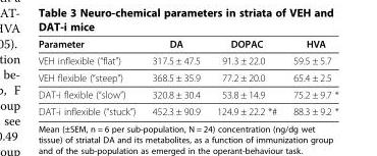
<table><thead><tr><td>Parameter</td><td>DA</td><td>DOPAC</td><td>HVA</td></tr></thead><tbody><tr><td>VEH inflexible (“flat”)</td><td>317.5 ± 47.5</td><td>91.3 ± 22.0</td><td>59.5 ± 5.7</td></tr><tr><td>VEH flexible (“steep”)</td><td>368.5 ± 35.9</td><td>77.2 ± 20.0</td><td>65.4 ± 2.5</td></tr><tr><td>DAT-i flexible (“slow”)</td><td>320.8 ± 30.4</td><td>53.8 ± 14.9</td><td>75.2 ± 9.7 *</td></tr><tr><td>DAT-i inflexible (“stuck”)</td><td>452.3 ± 90.9</td><td>124.9 ± 22.2 *#</td><td>88.3 ± 9.2 *</td></tr></tbody></table>